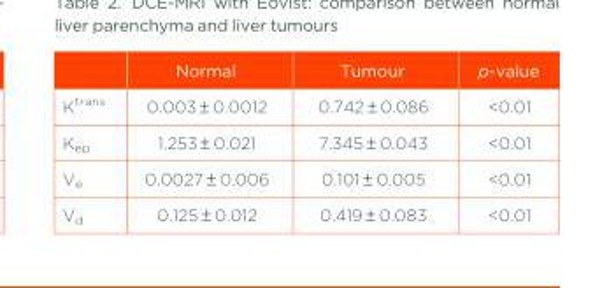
<table><thead><tr><td></td><td>Normal</td><td>Tumour</td><td>p-value</td></tr></thead><tbody><tr><td>K<sup>trans</sup></td><td>0.003 ± 0.0012</td><td>0.742 ± 0.086</td><td>&lt;0.01</td></tr><tr><td>K<sub>ep</sub></td><td>1.253 ± 0.021</td><td>7.345 ± 0.043</td><td>&lt;0.01</td></tr><tr><td>V<sub>e</sub></td><td>0.0027 ± 0.006</td><td>0.101 ± 0.005</td><td>&lt;0.01</td></tr><tr><td>V<sub>d</sub></td><td>0.125 ± 0.012</td><td>0.419 ± 0.083</td><td>&lt;0.01</td></tr></tbody></table>